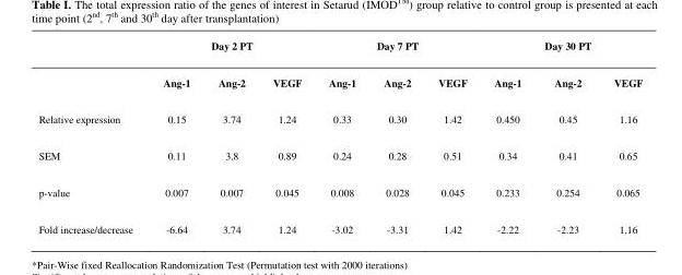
<table><thead><tr><td rowspan="2"></td><td colspan="3">Day 2 PT</td><td colspan="3">Day 7 PT</td><td colspan="3">Day 30 PT</td></tr><tr><td>Ang-1</td><td>Ang-2</td><td>VEGF</td><td>Ang-1</td><td>Ang-2</td><td>VEGF</td><td>Ang-1</td><td>Ang-2</td><td>VEGF</td></tr></thead><tbody><tr><td>Relative expression</td><td>0.15</td><td>3.74</td><td>1.24</td><td>0.33</td><td>0.30</td><td>1.42</td><td>0.450</td><td>0.45</td><td>1.16</td></tr><tr><td>SEM</td><td>0.11</td><td>3.8</td><td>0.89</td><td>0.24</td><td>0.28</td><td>0.51</td><td>0.34</td><td>0.41</td><td>0.65</td></tr><tr><td>p-value</td><td>0.007</td><td>0.007</td><td>0.045</td><td>0.008</td><td>0.028</td><td>0.045</td><td>0.233</td><td>0.254</td><td>0.065</td></tr><tr><td>Fold increase/decrease</td><td>-6.64</td><td>3.74</td><td>1.24</td><td>-3.02</td><td>-3.31</td><td>1.42</td><td>-2.22</td><td>-2.23</td><td>1.16</td></tr></tbody></table>